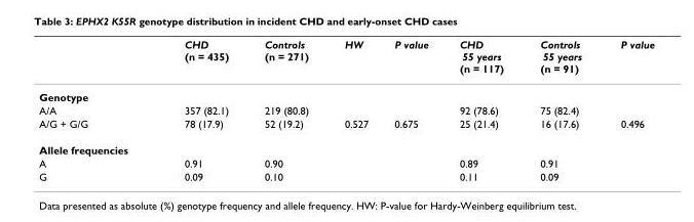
<table><thead><tr><td></td><td>CHD (n = 435)</td><td>Controls (n = 271)</td><td>HW</td><td>P value</td><td>CHD 55 years (n = 117)</td><td>Controls 55 years (n = 91)</td><td>P value</td></tr></thead><tbody><tr><td colspan="8">Genotype</td></tr><tr><td>A/A</td><td>357 (82.1)</td><td>219 (80.8)</td><td></td><td></td><td>92 (78.6)</td><td>75 (82.4)</td><td></td></tr><tr><td>A/G + G/G</td><td>78 (17.9)</td><td>52 (19.2)</td><td>0.527</td><td>0.675</td><td>25 (21.4)</td><td>16 (17.6)</td><td>0.496</td></tr><tr><td colspan="8">Allele frequencies</td></tr><tr><td>A</td><td>0.91</td><td>0.90</td><td></td><td></td><td>0.89</td><td>0.91</td><td></td></tr><tr><td>G</td><td>0.09</td><td>0.10</td><td></td><td></td><td>0.11</td><td>0.09</td><td></td></tr></tbody></table>